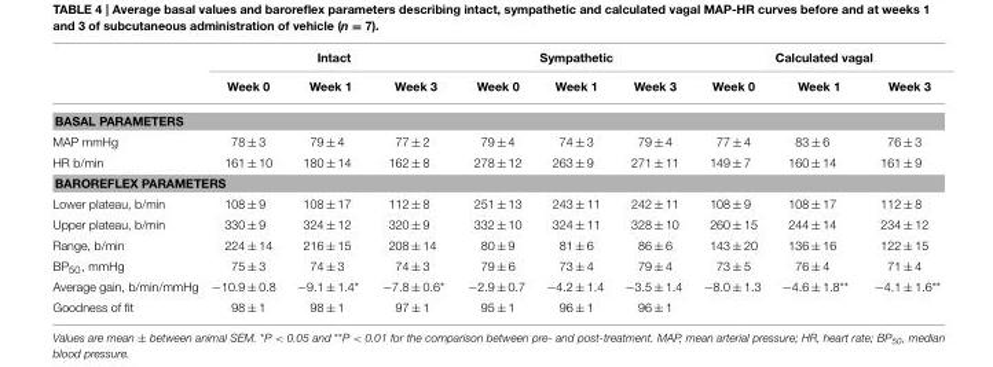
<table><thead><tr><td rowspan="2"></td><td colspan="3">Intact</td><td colspan="3">Sympathetic</td><td colspan="3">Calculated vagal</td></tr><tr><td>Week 0</td><td>Week 1</td><td>Week 3</td><td>Week 0</td><td>Week 1</td><td>Week 3</td><td>Week 0</td><td>Week 1</td><td>Week 3</td></tr></thead><tbody><tr><td colspan="10">BASAL PARAMETERS</td></tr><tr><td>MAP mmHg</td><td>78 ± 3</td><td>79 ± 4</td><td>77 ± 2</td><td>79 ± 4</td><td>74 ± 3</td><td>79 ± 4</td><td>77 ± 4</td><td>83 ± 6</td><td>76 ± 3</td></tr><tr><td>HR b/min</td><td>161 ± 10</td><td>180 ± 14</td><td>162 ± 8</td><td>278 ± 12</td><td>263 ± 9</td><td>271 ± 11</td><td>149 ± 7</td><td>160 ± 14</td><td>161 ± 9</td></tr><tr><td colspan="10">BAROREFLEX PARAMETERS</td></tr><tr><td>Lower plateau, b/min</td><td>108 ± 9</td><td>108 ± 17</td><td>112 ± 8</td><td>251 ± 13</td><td>243 ± 11</td><td>242 ± 11</td><td>108 ± 9</td><td>108 ± 17</td><td>112 ± 8</td></tr><tr><td>Upper plateau, b/min</td><td>330 ± 9</td><td>324 ± 12</td><td>320 ± 9</td><td>332 ± 10</td><td>324 ± 11</td><td>328 ± 10</td><td>260 ± 15</td><td>244 ± 14</td><td>234 ± 12</td></tr><tr><td>Range, b/min</td><td>224 ± 14</td><td>216 ± 15</td><td>208 ± 14</td><td>80 ± 9</td><td>81 ± 6</td><td>86 ± 6</td><td>143 ± 20</td><td>136 ± 16</td><td>122 ± 15</td></tr><tr><td>BP<sub>50</sub>, mmHg</td><td>75 ± 3</td><td>74 ± 3</td><td>74 ± 3</td><td>79 ± 6</td><td>73 ± 4</td><td>79 ± 4</td><td>73 ± 5</td><td>76 ± 4</td><td>71 ± 4</td></tr><tr><td>Average gain, b/min/mmHg</td><td>−10.9 ± 0.8</td><td>−9.1 ± 1.4*</td><td>−7.8 ± 0.6*</td><td>−2.9 ± 0.7</td><td>−4.2 ± 1.4</td><td>−3.5 ± 1.4</td><td>−8.0 ± 1.3</td><td>−4.6 ± 1.8**</td><td>−4.1 ± 1.6**</td></tr><tr><td>Goodness of fit</td><td>98 ± 1</td><td>98 ± 1</td><td>97 ± 1</td><td>95 ± 1</td><td>96 ± 1</td><td>96 ± 1</td><td></td><td></td><td></td></tr></tbody></table>